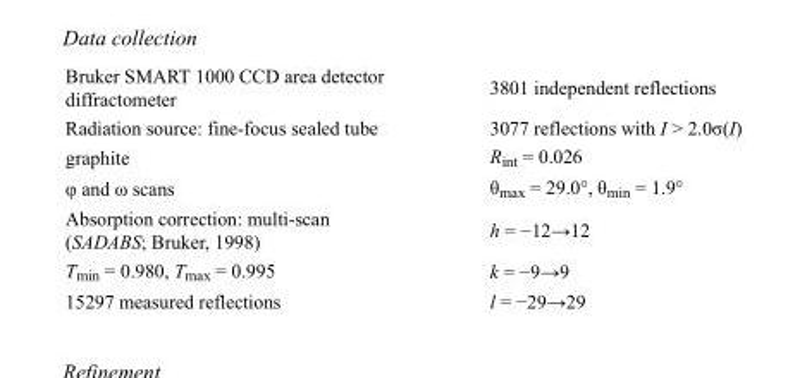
<table><tbody><tr><td>Bruker SMART 1000 CCD area detector diffractometer</td><td>3801 independent reflections</td></tr><tr><td>Radiation source: fine-focus sealed tube</td><td>3077 reflections with I &gt; 2.0σ(I)</td></tr><tr><td>graphite</td><td>R<sub>int</sub> = 0.026</td></tr><tr><td>φ and ω scans</td><td>θ<sub>max</sub> = 29.0°, θ<sub>min</sub> = 1.9°</td></tr><tr><td>Absorption correction: multi-scan (SADABS; Bruker, 1998)</td><td>h = −12→12</td></tr><tr><td>T<sub>min</sub> = 0.980, T<sub>max</sub> = 0.995</td><td>k = −9→9</td></tr><tr><td>15297 measured reflections</td><td>l = −29→29</td></tr></tbody></table>